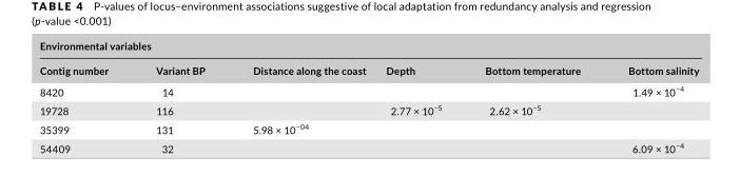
<table><thead><tr><td colspan="6">Environmental variables</td></tr><tr><td>Contig number</td><td>Variant BP</td><td>Distance along the coast</td><td>Depth</td><td>Bottom temperature</td><td>Bottom salinity</td></tr></thead><tbody><tr><td>8420</td><td>14</td><td></td><td></td><td></td><td>1.49 × 10<sup>−4</sup></td></tr><tr><td>19728</td><td>116</td><td></td><td>2.77 × 10<sup>−5</sup></td><td>2.62 × 10<sup>−5</sup></td><td></td></tr><tr><td>35399</td><td>131</td><td>5.98 × 10<sup>−04</sup></td><td></td><td></td><td></td></tr><tr><td>54409</td><td>32</td><td></td><td></td><td></td><td>6.09 × 10<sup>−4</sup></td></tr></tbody></table>